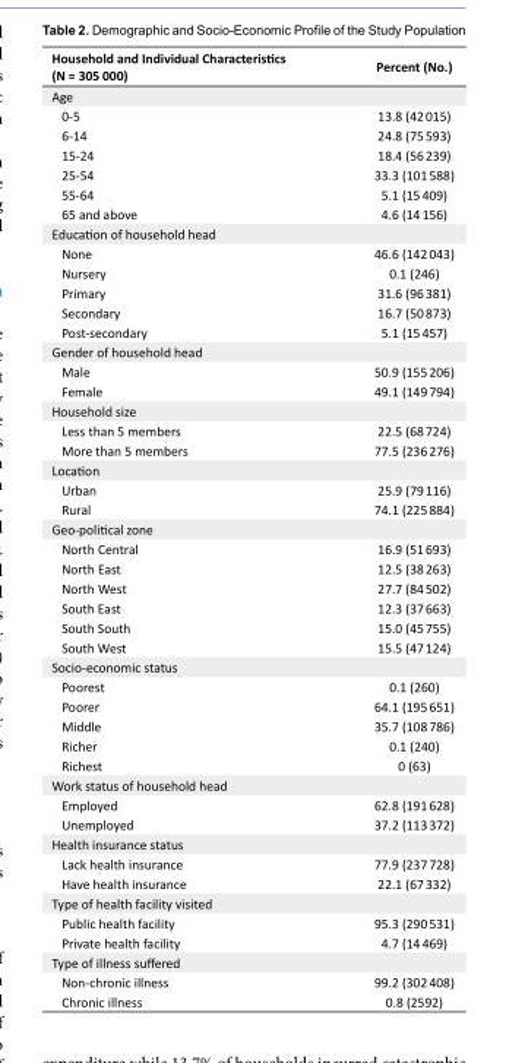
<table><tbody><tr><td>Household and Individual Characteristics (N = 305 000)</td><td>Percent (No.)</td></tr><tr><td colspan="2">Age</td></tr><tr><td>0-5</td><td>13.8 (42 015)</td></tr><tr><td>6-14</td><td>24.8 (75 593)</td></tr><tr><td>15-24</td><td>18.4 (56 239)</td></tr><tr><td>25-54</td><td>33.3 (101 588)</td></tr><tr><td>55-64</td><td>5.1 (15 409)</td></tr><tr><td>65 and above</td><td>4.6 (14 156)</td></tr><tr><td colspan="2">Education of household head</td></tr><tr><td>None</td><td>46.6 (142 043)</td></tr><tr><td>Nursery</td><td>0.1 (246)</td></tr><tr><td>Primary</td><td>31.6 (96 381)</td></tr><tr><td>Secondary</td><td>16.7 (50 873)</td></tr><tr><td>Post-secondary</td><td>5.1 (15 457)</td></tr><tr><td colspan="2">Gender of household head</td></tr><tr><td>Male</td><td>50.9 (155 206)</td></tr><tr><td>Female</td><td>49.1 (149 794)</td></tr><tr><td colspan="2">Household size</td></tr><tr><td>Less than 5 members</td><td>22.5 (68 724)</td></tr><tr><td>More than 5 members</td><td>77.5 (236 276)</td></tr><tr><td colspan="2">Location</td></tr><tr><td>Urban</td><td>25.9 (79 116)</td></tr><tr><td>Rural</td><td>74.1 (225 884)</td></tr><tr><td colspan="2">Geo-political zone</td></tr><tr><td>North Central</td><td>16.9 (51 693)</td></tr><tr><td>North East</td><td>12.5 (38 263)</td></tr><tr><td>North West</td><td>27.7 (84 502)</td></tr><tr><td>South East</td><td>12.3 (37 663)</td></tr><tr><td>South South</td><td>15.0 (45 755)</td></tr><tr><td>South West</td><td>15.5 (47 124)</td></tr><tr><td colspan="2">Socio-economic status</td></tr><tr><td>Poorest</td><td>0.1 (260)</td></tr><tr><td>Poorer</td><td>64.1 (195 651)</td></tr><tr><td>Middle</td><td>35.7 (108 786)</td></tr><tr><td>Richer</td><td>0.1 (240)</td></tr><tr><td>Richest</td><td>0 (63)</td></tr><tr><td colspan="2">Work status of household head</td></tr><tr><td>Employed</td><td>62.8 (191 628)</td></tr><tr><td>Unemployed</td><td>37.2 (113 372)</td></tr><tr><td colspan="2">Health insurance status</td></tr><tr><td>Lack health insurance</td><td>77.9 (237 728)</td></tr><tr><td>Have health insurance</td><td>22.1 (67 332)</td></tr><tr><td colspan="2">Type of health facility visited</td></tr><tr><td>Public health facility</td><td>95.3 (290 531)</td></tr><tr><td>Private health facility</td><td>4.7 (14 469)</td></tr><tr><td colspan="2">Type of illness suffered</td></tr><tr><td>Non-chronic illness</td><td>99.2 (302 408)</td></tr><tr><td>Chronic illness</td><td>0.8 (2592)</td></tr></tbody></table>